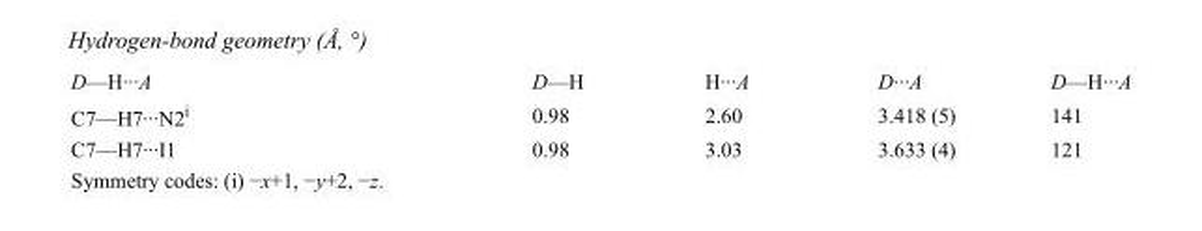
<table><tbody><tr><td>D—H···A</td><td>D—H</td><td>H···A</td><td>D···A</td><td>D—H···A</td></tr><tr><td>C7—H7···N2<sup>i</sup></td><td>0.98</td><td>2.60</td><td>3.418 (5)</td><td>141</td></tr><tr><td>C7—H7···I1</td><td>0.98</td><td>3.03</td><td>3.633 (4)</td><td>121</td></tr></tbody></table>